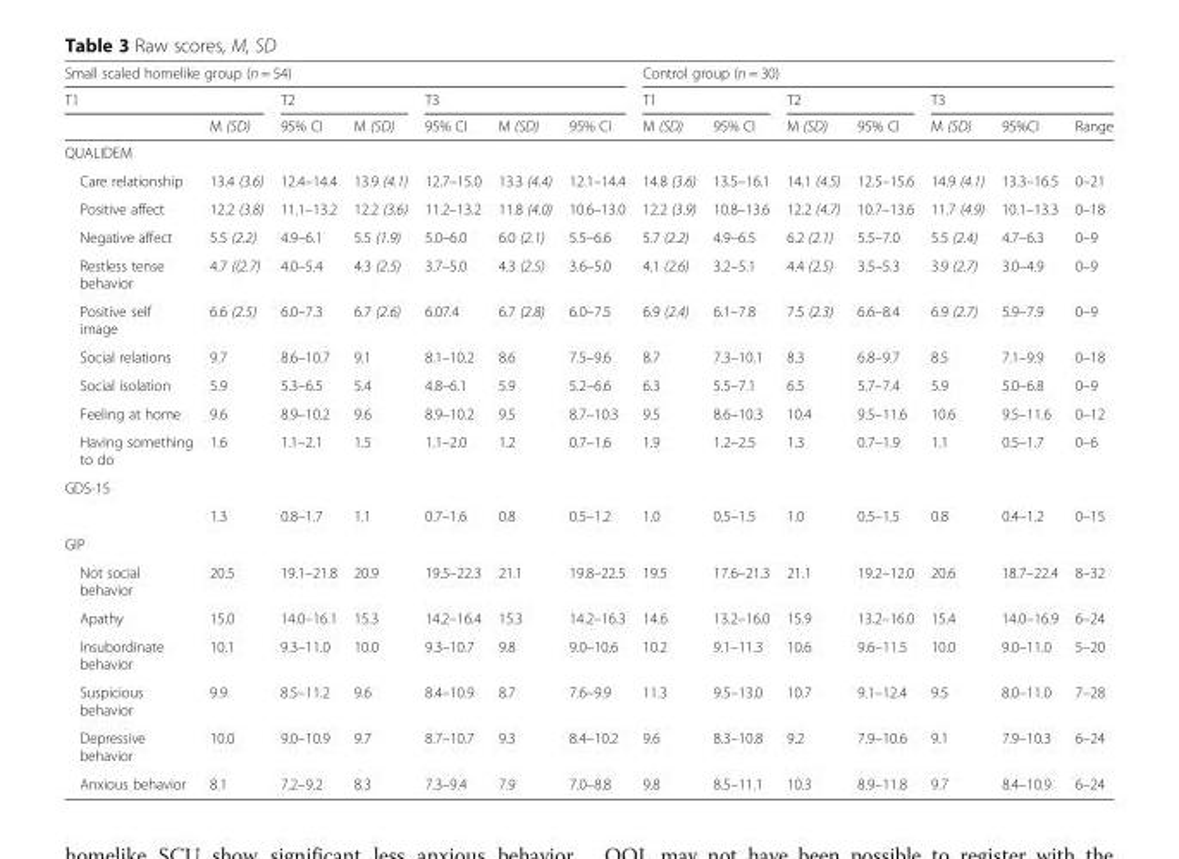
<table><thead><tr><td colspan="7">Small scaled homelike group (n = 54)</td><td colspan="7">Control group (n = 30)</td></tr><tr><td colspan="2">T1</td><td colspan="2">T2</td><td colspan="3">T3</td><td colspan="2">T1</td><td colspan="2">T2</td><td colspan="3">T3</td></tr><tr><td></td><td>M (SD)</td><td>95% CI</td><td>M (SD)</td><td>95% CI</td><td>M (SD)</td><td>95% CI</td><td>M (SD)</td><td>95% CI</td><td>M (SD)</td><td>95% CI</td><td>M (SD)</td><td>95%CI</td><td>Range</td></tr></thead><tbody><tr><td colspan="14">QUALIDEM</td></tr><tr><td>Care relationship</td><td>13.4 (3.6)</td><td>12.4–14.4</td><td>13.9 (4.1)</td><td>12.7–15.0</td><td>13.3 (4.4)</td><td>12.1–14.4</td><td>14.8 (3.6)</td><td>13.5–16.1</td><td>14.1 (4.5)</td><td>12.5–15.6</td><td>14.9 (4.1)</td><td>13.3–16.5</td><td>0–21</td></tr><tr><td>Positive affect</td><td>12.2 (3.8)</td><td>11.1–13.2</td><td>12.2 (3.6)</td><td>11.2–13.2</td><td>11.8 (4.0)</td><td>10.6–13.0</td><td>12.2 (3.9)</td><td>10.8–13.6</td><td>12.2 (4.7)</td><td>10.7–13.6</td><td>11.7 (4.9)</td><td>10.1–13.3</td><td>0–18</td></tr><tr><td>Negative affect</td><td>5.5 (2.2)</td><td>4.9–6.1</td><td>5.5 (1.9)</td><td>5.0–6.0</td><td>6.0 (2.1)</td><td>5.5–6.6</td><td>5.7 (2.2)</td><td>4.9–6.5</td><td>6.2 (2.1)</td><td>5.5–7.0</td><td>5.5 (2.4)</td><td>4.7–6.3</td><td>0–9</td></tr><tr><td>Restless tense behavior</td><td>4.7 ((2.7)</td><td>4.0–5.4</td><td>4.3 (2.5)</td><td>3.7–5.0</td><td>4.3 (2.5)</td><td>3.6–5.0</td><td>4.1 (2.6)</td><td>3.2–5.1</td><td>4.4 (2.5)</td><td>3.5–5.3</td><td>3.9 (2.7)</td><td>3.0–4.9</td><td>0–9</td></tr><tr><td>Positive self image</td><td>6.6 (2.5)</td><td>6.0–7.3</td><td>6.7 (2.6)</td><td>6.07.4</td><td>6.7 (2.8)</td><td>6.0–7.5</td><td>6.9 (2.4)</td><td>6.1–7.8</td><td>7.5 (2.3)</td><td>6.6–8.4</td><td>6.9 (2.7)</td><td>5.9–7.9</td><td>0–9</td></tr><tr><td>Social relations</td><td>9.7</td><td>8.6–10.7</td><td>9.1</td><td>8.1–10.2</td><td>8.6</td><td>7.5–9.6</td><td>8.7</td><td>7.3–10.1</td><td>8.3</td><td>6.8–9.7</td><td>8.5</td><td>7.1–9.9</td><td>0–18</td></tr><tr><td>Social isolation</td><td>5.9</td><td>5.3–6.5</td><td>5.4</td><td>4.8–6.1</td><td>5.9</td><td>5.2–6.6</td><td>6.3</td><td>5.5–7.1</td><td>6.5</td><td>5.7–7.4</td><td>5.9</td><td>5.0–6.8</td><td>0–9</td></tr><tr><td>Feeling at home</td><td>9.6</td><td>8.9–10.2</td><td>9.6</td><td>8.9–10.2</td><td>9.5</td><td>8.7–10.3</td><td>9.5</td><td>8.6–10.3</td><td>10.4</td><td>9.5–11.6</td><td>10.6</td><td>9.5–11.6</td><td>0–12</td></tr><tr><td>Having something to do</td><td>1.6</td><td>1.1–2.1</td><td>1.5</td><td>1.1–2.0</td><td>1.2</td><td>0.7–1.6</td><td>1.9</td><td>1.2–2.5</td><td>1.3</td><td>0.7–1.9</td><td>1.1</td><td>0.5–1.7</td><td>0–6</td></tr><tr><td colspan="14">GDS-15</td></tr><tr><td></td><td>1.3</td><td>0.8–1.7</td><td>1.1</td><td>0.7–1.6</td><td>0.8</td><td>0.5–1.2</td><td>1.0</td><td>0.5–1.5</td><td>1.0</td><td>0.5–1.5</td><td>0.8</td><td>0.4–1.2</td><td>0–15</td></tr><tr><td colspan="14">GIP</td></tr><tr><td>Not social behavior</td><td>20.5</td><td>19.1–21.8</td><td>20.9</td><td>19.5–22.3</td><td>21.1</td><td>19.8–22.5</td><td>19.5</td><td>17.6–21.3</td><td>21.1</td><td>19.2–12.0</td><td>20.6</td><td>18.7–22.4</td><td>8–32</td></tr><tr><td>Apathy</td><td>15.0</td><td>14.0–16.1</td><td>15.3</td><td>14.2–16.4</td><td>15.3</td><td>14.2–16.3</td><td>14.6</td><td>13.2–16.0</td><td>15.9</td><td>13.2–16.0</td><td>15.4</td><td>14.0–16.9</td><td>6–24</td></tr><tr><td>Insubordinate behavior</td><td>10.1</td><td>9.3–11.0</td><td>10.0</td><td>9.3–10.7</td><td>9.8</td><td>9.0–10.6</td><td>10.2</td><td>9.1–11.3</td><td>10.6</td><td>9.6–11.5</td><td>10.0</td><td>9.0–11.0</td><td>5–20</td></tr><tr><td>Suspicious behavior</td><td>9.9</td><td>8.5–11.2</td><td>9.6</td><td>8.4–10.9</td><td>8.7</td><td>7.6–9.9</td><td>11.3</td><td>9.5–13.0</td><td>10.7</td><td>9.1–12.4</td><td>9.5</td><td>8.0–11.0</td><td>7–28</td></tr><tr><td>Depressive behavior</td><td>10.0</td><td>9.0–10.9</td><td>9.7</td><td>8.7–10.7</td><td>9.3</td><td>8.4–10.2</td><td>9.6</td><td>8.3–10.8</td><td>9.2</td><td>7.9–10.6</td><td>9.1</td><td>7.9–10.3</td><td>6–24</td></tr><tr><td>Anxious behavior</td><td>8.1</td><td>7.2–9.2</td><td>8.3</td><td>7.3–9.4</td><td>7.9</td><td>7.0–8.8</td><td>9.8</td><td>8.5–11.1</td><td>10.3</td><td>8.9–11.8</td><td>9.7</td><td>8.4–10.9</td><td>6–24</td></tr></tbody></table>